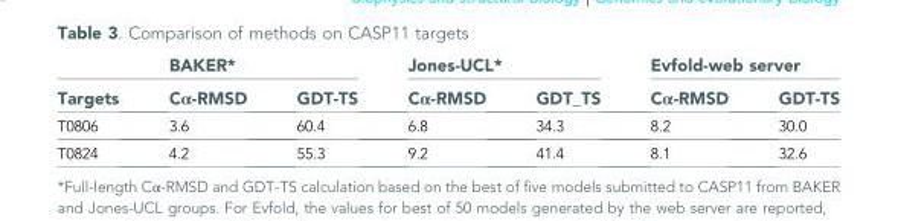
<table><thead><tr><td rowspan="2">Targets</td><td colspan="2">BAKER*</td><td colspan="2">Jones-UCL*</td><td colspan="2">Evfold-web server</td></tr><tr><td>Cα-RMSD</td><td>GDT-TS</td><td>Cα-RMSD</td><td>GDT_TS</td><td>Cα-RMSD</td><td>GDT-TS</td></tr></thead><tbody><tr><td>T0806</td><td>3.6</td><td>60.4</td><td>6.8</td><td>34.3</td><td>8.2</td><td>30.0</td></tr><tr><td>T0824</td><td>4.2</td><td>55.3</td><td>9.2</td><td>41.4</td><td>8.1</td><td>32.6</td></tr></tbody></table>